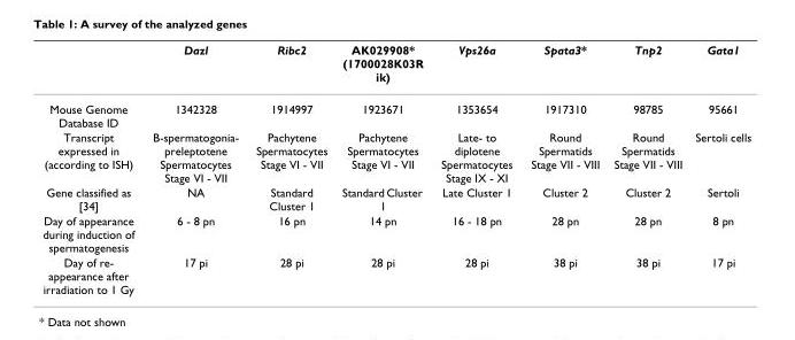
<table><thead><tr><td></td><td>Dazl</td><td>Ribc2</td><td>AK029908* (1700028K03R ik)</td><td>Vps26a</td><td>Spata3*</td><td>Tnp2</td><td>Gata1</td></tr></thead><tbody><tr><td>Mouse Genome Database ID</td><td>1342328</td><td>1914997</td><td>1923671</td><td>1353654</td><td>1917310</td><td>98785</td><td>95661</td></tr><tr><td>Transcript expressed in (according to ISH)</td><td>B-spermatogonia- preleptotene Spermatocytes Stage VI - VII</td><td>Pachytene Spermatocytes Stage VI - VII</td><td>Pachytene Spermatocytes Stage VI - VII</td><td>Late- to diplotene Spermatocytes Stage IX - XI</td><td>Round Spermatids Stage VII - VIII</td><td>Round Spermatids Stage VII - VIII</td><td>Sertoli cells</td></tr><tr><td>Gene classified as [34]</td><td>NA</td><td>Standard Cluster 1</td><td>Standard Cluster 1</td><td>Late Cluster 1</td><td>Cluster 2</td><td>Cluster 2</td><td>Sertoli</td></tr><tr><td>Day of appearance during induction of spermatogenesis</td><td>6 - 8 pn</td><td>16 pn</td><td>14 pn</td><td>16 - 18 pn</td><td>28 pn</td><td>28 pn</td><td>8 pn</td></tr><tr><td>Day of re- appearance after irradiation to 1 Gy</td><td>17 pi</td><td>28 pi</td><td>28 pi</td><td>28 pi</td><td>38 pi</td><td>38 pi</td><td>17 pi</td></tr></tbody></table>